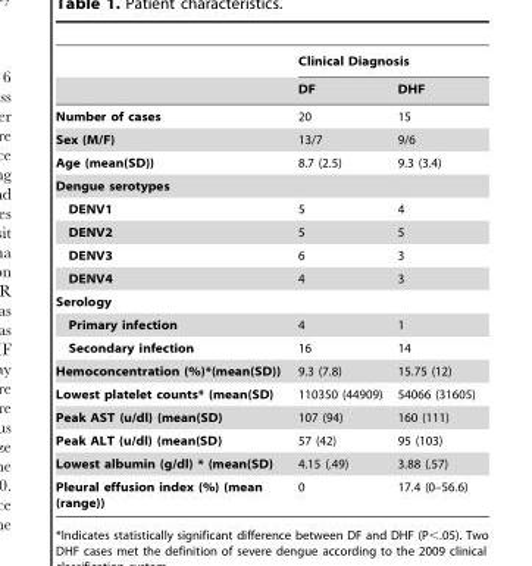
<table><thead><tr><td rowspan="2"></td><td colspan="2">Clinical Diagnosis</td></tr><tr><td>DF</td><td>DHF</td></tr></thead><tbody><tr><td>Number of cases</td><td>20</td><td>15</td></tr><tr><td>Sex (M/F)</td><td>13/7</td><td>9/6</td></tr><tr><td>Age (mean(SD))</td><td>8.7 (2.5)</td><td>9.3 (3.4)</td></tr><tr><td colspan="3">Dengue serotypes</td></tr><tr><td>DENV1</td><td>5</td><td>4</td></tr><tr><td>DENV2</td><td>5</td><td>5</td></tr><tr><td>DENV3</td><td>6</td><td>3</td></tr><tr><td>DENV4</td><td>4</td><td>3</td></tr><tr><td colspan="3">Serology</td></tr><tr><td>Primary infection</td><td>4</td><td>1</td></tr><tr><td>Secondary infection</td><td>16</td><td>14</td></tr><tr><td>Hemoconcentration (%)*(mean(SD))</td><td>9.3 (7.8)</td><td>15.75 (12)</td></tr><tr><td>Lowest platelet counts* (mean(SD)</td><td>110350 (44909)</td><td>54066 (31605)</td></tr><tr><td>Peak AST (u/dl) (mean(SD)</td><td>107 (94)</td><td>160 (111)</td></tr><tr><td>Peak ALT (u/dl) (mean(SD)</td><td>57 (42)</td><td>95 (103)</td></tr><tr><td>Lowest albumin (g/dl) * (mean(SD)</td><td>4.15 (.49)</td><td>3.88 (.57)</td></tr><tr><td>Pleural effusion index (%) (mean (range))</td><td>0</td><td>17.4 (0–56.6)</td></tr></tbody></table>